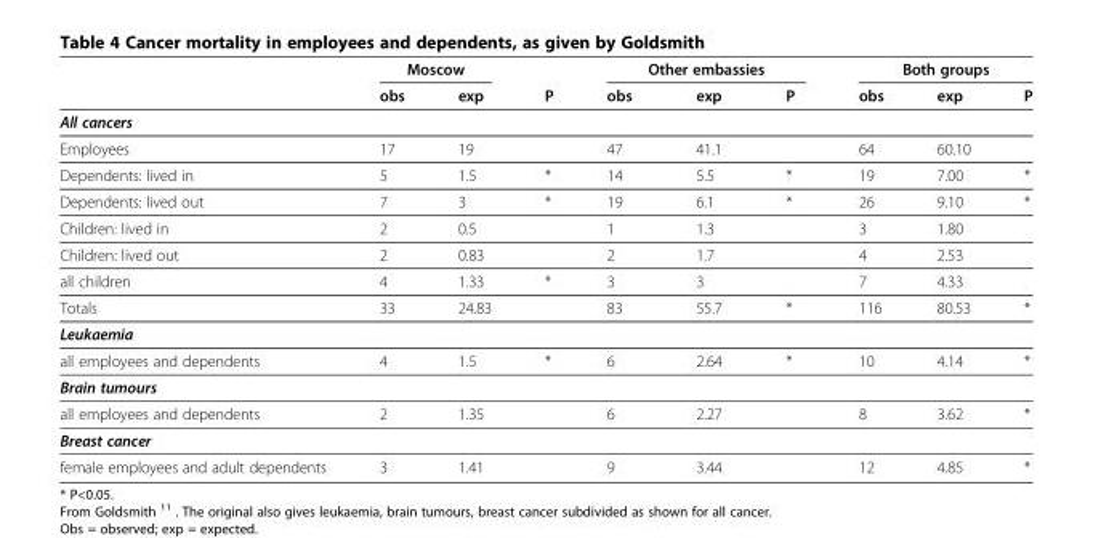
<table><thead><tr><td rowspan="2"></td><td colspan="2">Moscow</td><td rowspan="2">P</td><td colspan="3">Other embassies</td><td colspan="3">Both groups</td></tr><tr><td>obs</td><td>exp</td><td>obs</td><td>exp</td><td>P</td><td>obs</td><td>exp</td><td>P</td></tr></thead><tbody><tr><td colspan="10">All cancers</td></tr><tr><td>Employees</td><td>17</td><td>19</td><td></td><td>47</td><td>41.1</td><td></td><td>64</td><td>60.10</td><td></td></tr><tr><td>Dependents: lived in</td><td>5</td><td>1.5</td><td>*</td><td>14</td><td>5.5</td><td>*</td><td>19</td><td>7.00</td><td>*</td></tr><tr><td>Dependents: lived out</td><td>7</td><td>3</td><td>*</td><td>19</td><td>6.1</td><td>*</td><td>26</td><td>9.10</td><td>*</td></tr><tr><td>Children: lived in</td><td>2</td><td>0.5</td><td></td><td>1</td><td>1.3</td><td></td><td>3</td><td>1.80</td><td></td></tr><tr><td>Children: lived out</td><td>2</td><td>0.83</td><td></td><td>2</td><td>1.7</td><td></td><td>4</td><td>2.53</td><td></td></tr><tr><td>all children</td><td>4</td><td>1.33</td><td>*</td><td>3</td><td>3</td><td></td><td>7</td><td>4.33</td><td></td></tr><tr><td>Totals</td><td>33</td><td>24.83</td><td></td><td>83</td><td>55.7</td><td>*</td><td>116</td><td>80.53</td><td>*</td></tr><tr><td colspan="10">Leukaemia</td></tr><tr><td>all employees and dependents</td><td>4</td><td>1.5</td><td>*</td><td>6</td><td>2.64</td><td>*</td><td>10</td><td>4.14</td><td>*</td></tr><tr><td colspan="10">Brain tumours</td></tr><tr><td>all employees and dependents</td><td>2</td><td>1.35</td><td></td><td>6</td><td>2.27</td><td></td><td>8</td><td>3.62</td><td>*</td></tr><tr><td colspan="10">Breast cancer</td></tr><tr><td>female employees and adult dependents</td><td>3</td><td>1.41</td><td></td><td>9</td><td>3.44</td><td></td><td>12</td><td>4.85</td><td>*</td></tr></tbody></table>